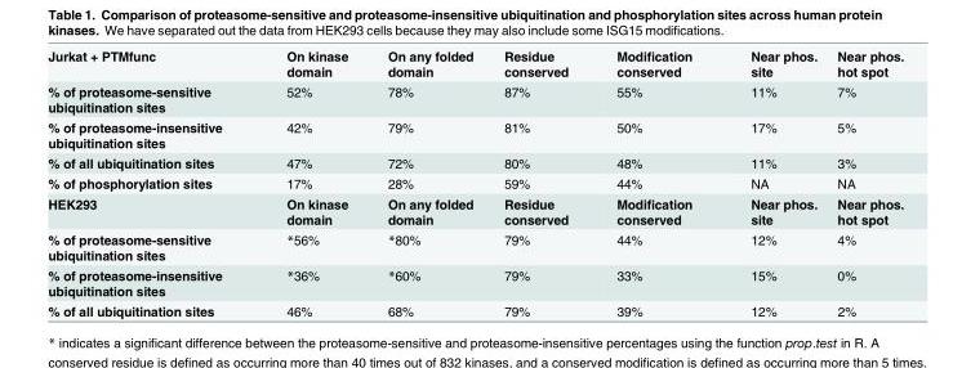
<table><tbody><tr><td>Jurkat + PTMfunc</td><td>On kinase domain</td><td>On any folded domain</td><td>Residue conserved</td><td>Modification conserved</td><td>Near phos. site</td><td>Near phos. hot spot</td></tr><tr><td>% of proteasome-sensitive ubiquitination sites</td><td>52%</td><td>78%</td><td>87%</td><td>55%</td><td>11%</td><td>7%</td></tr><tr><td>% of proteasome-insensitive ubiquitination sites</td><td>42%</td><td>79%</td><td>81%</td><td>50%</td><td>17%</td><td>5%</td></tr><tr><td>% of all ubiquitination sites</td><td>47%</td><td>72%</td><td>80%</td><td>48%</td><td>11%</td><td>3%</td></tr><tr><td>% of phosphorylation sites</td><td>17%</td><td>28%</td><td>59%</td><td>44%</td><td>NA</td><td>NA</td></tr><tr><td>HEK293</td><td>On kinase domain</td><td>On any folded domain</td><td>Residue conserved</td><td>Modification conserved</td><td>Near phos. site</td><td>Near phos. hot spot</td></tr><tr><td>% of proteasome-sensitive ubiquitination sites</td><td>*56%</td><td>*80%</td><td>79%</td><td>44%</td><td>12%</td><td>4%</td></tr><tr><td>% of proteasome-insensitive ubiquitination sites</td><td>*36%</td><td>*60%</td><td>79%</td><td>33%</td><td>15%</td><td>0%</td></tr><tr><td>% of all ubiquitination sites</td><td>46%</td><td>68%</td><td>79%</td><td>39%</td><td>12%</td><td>2%</td></tr></tbody></table>